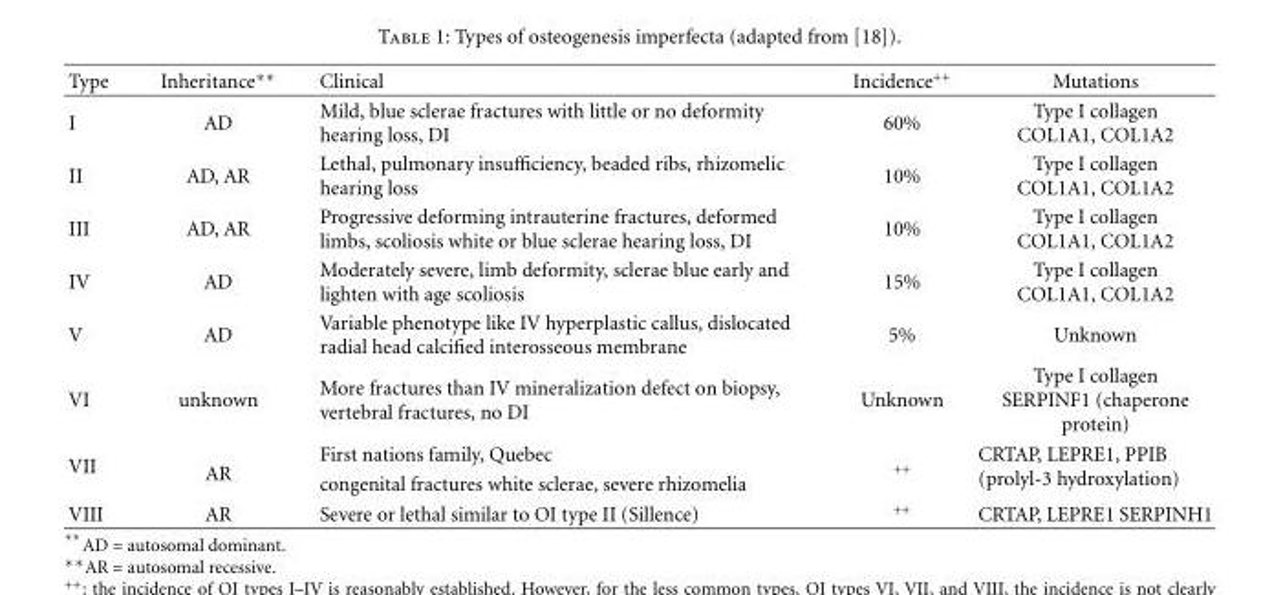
<table><thead><tr><td>Type</td><td>Inheritance∗∗</td><td>Clinical</td><td>Incidence<sup>++</sup></td><td>Mutations</td></tr></thead><tbody><tr><td>I</td><td>AD</td><td>Mild, blue sclerae fractures with little or no deformity hearing loss, DI</td><td>60%</td><td>Type I collagen COL1A1, COL1A2</td></tr><tr><td>II</td><td>AD, AR</td><td>Lethal, pulmonary insufficiency, beaded ribs, rhizomelic hearing loss</td><td>10%</td><td>Type I collagen COL1A1, COL1A2</td></tr><tr><td>III</td><td>AD, AR</td><td>Progressive deforming intrauterine fractures, deformed limbs, scoliosis white or blue sclerae hearing loss, DI</td><td>10%</td><td>Type I collagen COL1A1, COL1A2</td></tr><tr><td>IV</td><td>AD</td><td>Moderately severe, limb deformity, sclerae blue early and lighten with age scoliosis</td><td>15%</td><td>Type I collagen COL1A1, COL1A2</td></tr><tr><td>V</td><td>AD</td><td>Variable phenotype like IV hyperplastic callus, dislocated radial head calcified interosseous membrane</td><td>5%</td><td>Unknown</td></tr><tr><td>VI</td><td>unknown</td><td>More fractures than IV mineralization defect on biopsy, vertebral fractures, no DI</td><td>Unknown</td><td>Type I collagen SERPINF1 (chaperone protein)</td></tr><tr><td rowspan="2">VII</td><td rowspan="2">AR</td><td>First nations family, Quebec</td><td rowspan="2"><sup>++</sup></td><td rowspan="2">CRTAP, LEPRE1, PPIB (prolyl-3 hydroxylation)</td></tr><tr><td>congenital fractures white sclerae, severe rhizomelia</td></tr><tr><td>VIII</td><td>AR</td><td>Severe or lethal similar to OI type II (Sillence)</td><td><sup>++</sup></td><td>CRTAP, LEPRE1 SERPINH1</td></tr></tbody></table>